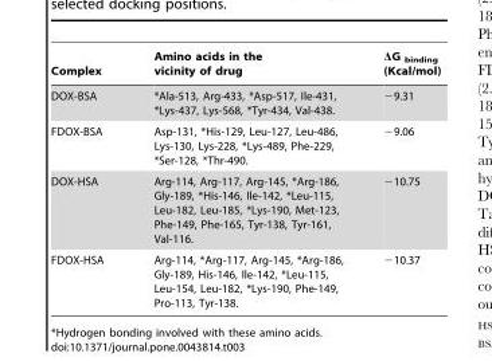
<table><thead><tr><td>Complex</td><td>Amino acids in the vicinity of drug</td><td>ΔG <sub>binding</sub> (Kcal/mol)</td></tr></thead><tbody><tr><td>DOX-BSA</td><td>*Ala-513, Arg-433, *Asp-517, Ile-431, *Lys-437, Lys-568, *Tyr-434, Val-438.</td><td>−9.31</td></tr><tr><td>FDOX-BSA</td><td>Asp-131, *His-129, Leu-127, Leu-486, Lys-130, Lys-228, *Lys-489, Phe-229, *Ser-128, *Thr-490.</td><td>−9.06</td></tr><tr><td>DOX-HSA</td><td>Arg-114, Arg-117, Arg-145, *Arg-186, Gly-189, *His-146, Ile-142, *Leu-115, Leu-182, Leu-185, *Lys-190, Met-123, Phe-149, Phe-165, Tyr-138, Tyr-161, Val-116.</td><td>−10.75</td></tr><tr><td>FDOX-HSA</td><td>Arg-114, *Arg-117, Arg-145, *Arg-186, Gly-189, His-146, Ile-142, *Leu-115, Leu-154, Leu-182, *Lys-190, Phe-149, Pro-113, Tyr-138.</td><td>−10.37</td></tr></tbody></table>